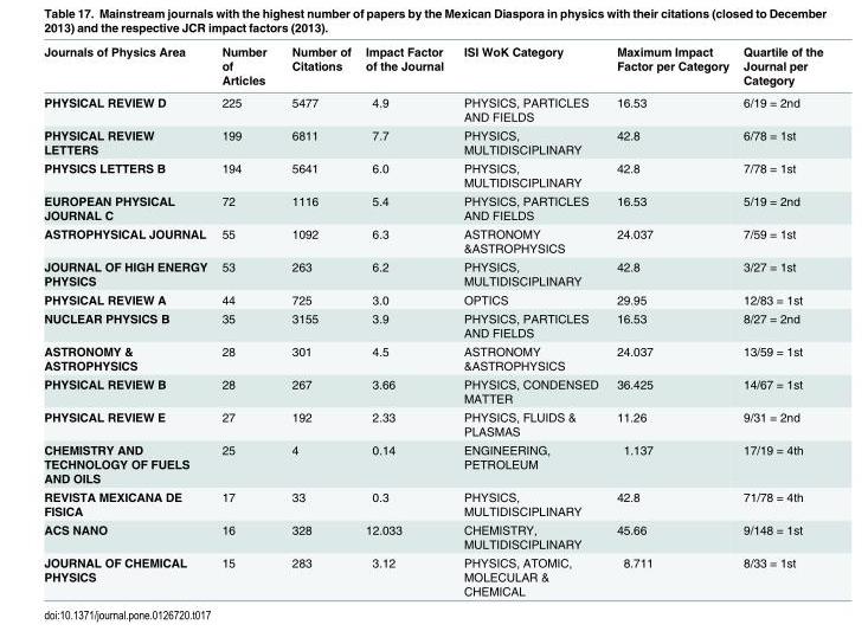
<table><thead><tr><td>Journals of Physics Area</td><td>Number of Articles</td><td>Number of Citations</td><td>Impact Factor of the Journal</td><td>ISI WoK Category</td><td>Maximum Impact Factor per Category</td><td>Quartile of the Journal per Category</td></tr></thead><tbody><tr><td>PHYSICAL REVIEW D</td><td>225</td><td>5477</td><td>4.9</td><td>PHYSICS, PARTICLES AND FIELDS</td><td>16.53</td><td>6/19 = 2nd</td></tr><tr><td>PHYSICAL REVIEW LETTERS</td><td>199</td><td>6811</td><td>7.7</td><td>PHYSICS, MULTIDISCIPLINARY</td><td>42.8</td><td>6/78 = 1st</td></tr><tr><td>PHYSICS LETTERS B</td><td>194</td><td>5641</td><td>6.0</td><td>PHYSICS, MULTIDISCIPLINARY</td><td>42.8</td><td>7/78 = 1st</td></tr><tr><td>EUROPEAN PHYSICAL JOURNAL C</td><td>72</td><td>1116</td><td>5.4</td><td>PHYSICS, PARTICLES AND FIELDS</td><td>16.53</td><td>5/19 = 2nd</td></tr><tr><td>ASTROPHYSICAL JOURNAL</td><td>55</td><td>1092</td><td>6.3</td><td>ASTRONOMY &amp;ASTROPHYSICS</td><td>24.037</td><td>7/59 = 1st</td></tr><tr><td>JOURNAL OF HIGH ENERGY PHYSICS</td><td>53</td><td>263</td><td>6.2</td><td>PHYSICS, MULTIDISCIPLINARY</td><td>42.8</td><td>3/27 = 1st</td></tr><tr><td>PHYSICAL REVIEW A</td><td>44</td><td>725</td><td>3.0</td><td>OPTICS</td><td>29.95</td><td>12/83 = 1st</td></tr><tr><td>NUCLEAR PHYSICS B</td><td>35</td><td>3155</td><td>3.9</td><td>PHYSICS, PARTICLES AND FIELDS</td><td>16.53</td><td>8/27 = 2nd</td></tr><tr><td>ASTRONOMY &amp; ASTROPHYSICS</td><td>28</td><td>301</td><td>4.5</td><td>ASTRONOMY &amp;ASTROPHYSICS</td><td>24.037</td><td>13/59 = 1st</td></tr><tr><td>PHYSICAL REVIEW B</td><td>28</td><td>267</td><td>3.66</td><td>PHYSICS, CONDENSED MATTER</td><td>36.425</td><td>14/67 = 1st</td></tr><tr><td>PHYSICAL REVIEW E</td><td>27</td><td>192</td><td>2.33</td><td>PHYSICS, FLUIDS &amp; PLASMAS</td><td>11.26</td><td>9/31 = 2nd</td></tr><tr><td>CHEMISTRY AND TECHNOLOGY OF FUELS AND OILS</td><td>25</td><td>4</td><td>0.14</td><td>ENGINEERING, PETROLEUM</td><td>1.137</td><td>17/19 = 4th</td></tr><tr><td>REVISTA MEXICANA DE FISICA</td><td>17</td><td>33</td><td>0.3</td><td>PHYSICS, MULTIDISCIPLINARY</td><td>42.8</td><td>71/78 = 4th</td></tr><tr><td>ACS NANO</td><td>16</td><td>328</td><td>12.033</td><td>CHEMISTRY, MULTIDISCIPLINARY</td><td>45.66</td><td>9/148 = 1st</td></tr><tr><td>JOURNAL OF CHEMICAL PHYSICS</td><td>15</td><td>283</td><td>3.12</td><td>PHYSICS, ATOMIC, MOLECULAR &amp; CHEMICAL</td><td>8.711</td><td>8/33 = 1st</td></tr></tbody></table>